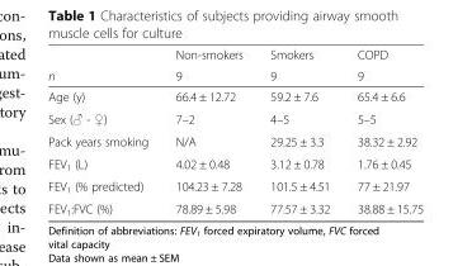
<table><thead><tr><td rowspan="2">n</td><td rowspan="2">Non-smokers 9</td><td rowspan="2">Smokers 9</td><td rowspan="2">COPD 9</td></tr><tr></tr></thead><tbody><tr><td>Age (y)</td><td>66.4 ± 12.72</td><td>59.2 ± 7.6</td><td>65.4 ± 6.6</td></tr><tr><td>Sex (♂ - ♀)</td><td>7–2</td><td>4–5</td><td>5–5</td></tr><tr><td>Pack years smoking</td><td>N/A</td><td>29.25 ± 3.3</td><td>38.32 ± 2.92</td></tr><tr><td>FEV1 (L)</td><td>4.02 ± 0.48</td><td>3.12 ± 0.78</td><td>1.76 ± 0.45</td></tr><tr><td>FEV1 (% predicted)</td><td>104.23 ± 7.28</td><td>101.5 ± 4.51</td><td>77 ± 21.97</td></tr><tr><td>FEV1:FVC (%)</td><td>78.89 ± 5.98</td><td>77.57 ± 3.32</td><td>38.88 ± 15.75</td></tr></tbody></table>